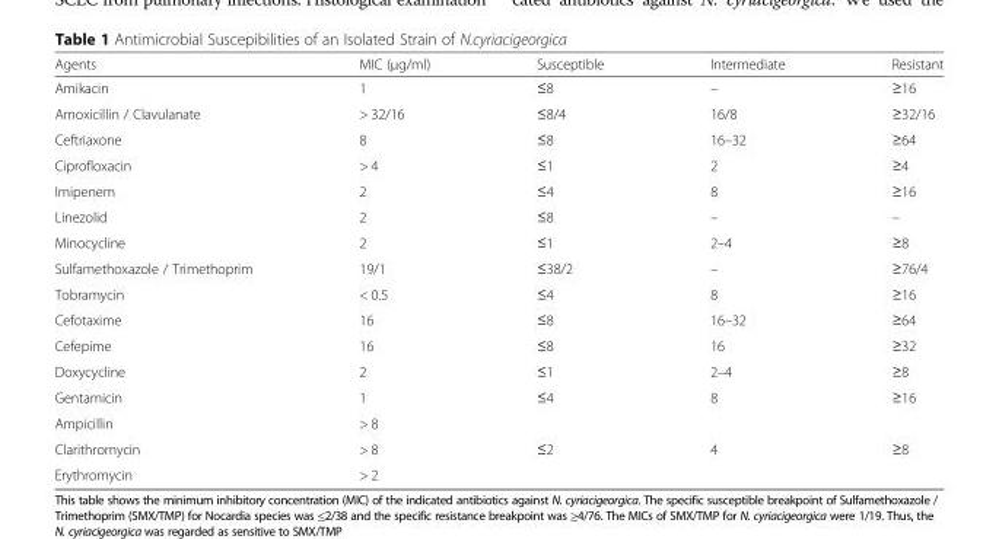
<table><thead><tr><td>Agents</td><td>MIC (μg/ml)</td><td>Susceptible</td><td>Intermediate</td><td>Resistant</td></tr></thead><tbody><tr><td>Amikacin</td><td>1</td><td>≤8</td><td>–</td><td>≥16</td></tr><tr><td>Amoxicillin / Clavulanate</td><td>&gt; 32/16</td><td>≤8/4</td><td>16/8</td><td>≥32/16</td></tr><tr><td>Ceftriaxone</td><td>8</td><td>≤8</td><td>16–32</td><td>≥64</td></tr><tr><td>Ciprofloxacin</td><td>&gt; 4</td><td>≤1</td><td>2</td><td>≥4</td></tr><tr><td>Imipenem</td><td>2</td><td>≤4</td><td>8</td><td>≥16</td></tr><tr><td>Linezolid</td><td>2</td><td>≤8</td><td>–</td><td>–</td></tr><tr><td>Minocycline</td><td>2</td><td>≤1</td><td>2–4</td><td>≥8</td></tr><tr><td>Sulfamethoxazole / Trimethoprim</td><td>19/1</td><td>≤38/2</td><td>–</td><td>≥76/4</td></tr><tr><td>Tobramycin</td><td>&lt; 0.5</td><td>≤4</td><td>8</td><td>≥16</td></tr><tr><td>Cefotaxime</td><td>16</td><td>≤8</td><td>16–32</td><td>≥64</td></tr><tr><td>Cefepime</td><td>16</td><td>≤8</td><td>16</td><td>≥32</td></tr><tr><td>Doxycycline</td><td>2</td><td>≤1</td><td>2–4</td><td>≥8</td></tr><tr><td>Gentamicin</td><td>1</td><td>≤4</td><td>8</td><td>≥16</td></tr><tr><td>Ampicillin</td><td>&gt; 8</td><td></td><td></td><td></td></tr><tr><td>Clarithromycin</td><td>&gt; 8</td><td>≤2</td><td>4</td><td>≥8</td></tr><tr><td>Erythromycin</td><td>&gt; 2</td><td></td><td></td><td></td></tr></tbody></table>